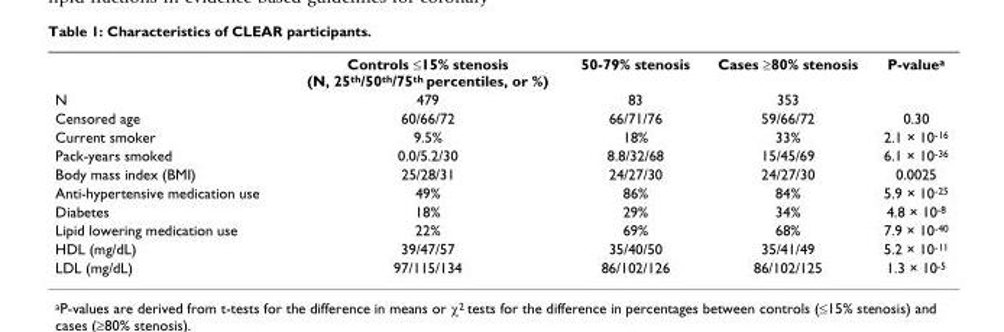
<table><thead><tr><td></td><td>Controls ≤15% stenosis (N, 25th/50th/75th percentiles, or %)</td><td>50-79% stenosis</td><td>Cases ≥80% stenosis</td><td>P-value<sup>a</sup></td></tr></thead><tbody><tr><td>N</td><td>479</td><td>83</td><td>353</td><td></td></tr><tr><td>Censored age</td><td>60/66/72</td><td>66/71/76</td><td>59/66/72</td><td>0.30</td></tr><tr><td>Current smoker</td><td>9.5%</td><td>18%</td><td>33%</td><td>2.1 × 10<sup>-16</sup></td></tr><tr><td>Pack-years smoked</td><td>0.0/5.2/30</td><td>8.8/32/68</td><td>15/45/69</td><td>6.1 × 10<sup>-36</sup></td></tr><tr><td>Body mass index (BMI)</td><td>25/28/31</td><td>24/27/30</td><td>24/27/30</td><td>0.0025</td></tr><tr><td>Anti-hypertensive medication use</td><td>49%</td><td>86%</td><td>84%</td><td>5.9 × 10<sup>-25</sup></td></tr><tr><td>Diabetes</td><td>18%</td><td>29%</td><td>34%</td><td>4.8 × 10<sup>-8</sup></td></tr><tr><td>Lipid lowering medication use</td><td>22%</td><td>69%</td><td>68%</td><td>7.9 × 10<sup>-40</sup></td></tr><tr><td>HDL (mg/dL)</td><td>39/47/57</td><td>35/40/50</td><td>35/41/49</td><td>5.2 × 10<sup>-11</sup></td></tr><tr><td>LDL (mg/dL)</td><td>97/115/134</td><td>86/102/126</td><td>86/102/125</td><td>1.3 × 10<sup>-5</sup></td></tr></tbody></table>